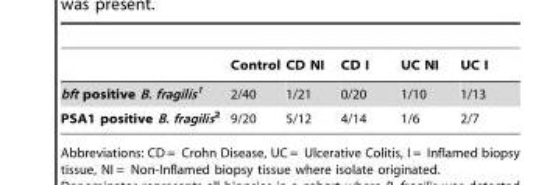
<table><thead><tr><td></td><td>Control</td><td>CD NI</td><td>CD I</td><td>UC NI</td><td>UC I</td></tr></thead><tbody><tr><td>bft positive B. fragilis<sup>1</sup></td><td>2/40</td><td>1/21</td><td>0/20</td><td>1/10</td><td>1/13</td></tr><tr><td>PSA1 positive B. fragilis<sup>2</sup></td><td>9/20</td><td>5/12</td><td>4/14</td><td>1/6</td><td>2/7</td></tr></tbody></table>